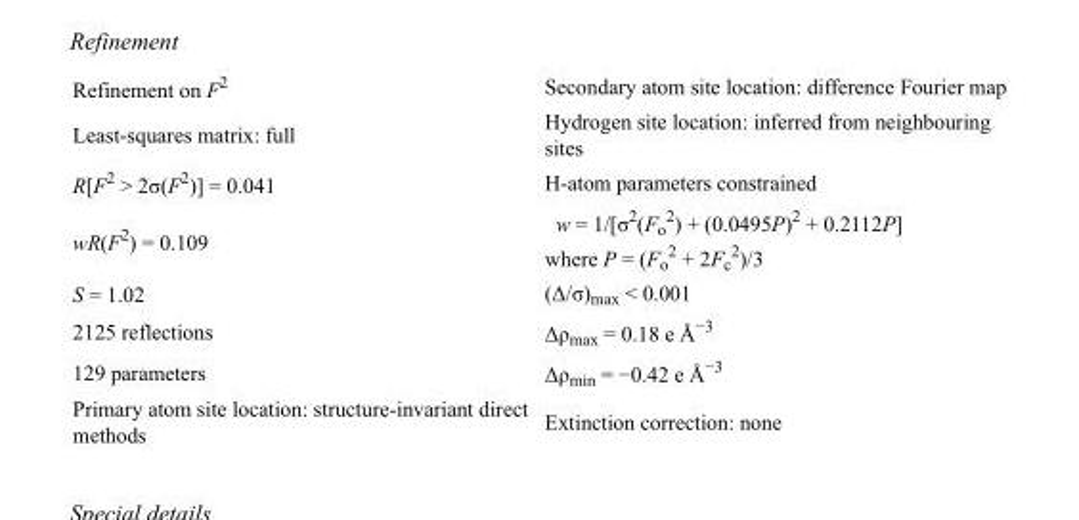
<table><tbody><tr><td>Refinement on F<sup>2</sup></td><td>Secondary atom site location: difference Fourier map</td></tr><tr><td>Least-squares matrix: full</td><td>Hydrogen site location: inferred from neighbouring sites</td></tr><tr><td>R[F<sup>2</sup> &gt; 2σ(F<sup>2</sup>)] = 0.041</td><td>H-atom parameters constrained</td></tr><tr><td>wR(F<sup>2</sup>) = 0.109</td><td>w = 1/[σ<sup>2</sup>(F<sub>o</sub> <sup>2</sup>) + (0.0495P)<sup>2</sup> + 0.2112P] where P = (F<sub>o</sub> <sup>2</sup> + 2F<sub>c</sub> <sup>2</sup>)/3</td></tr><tr><td>S = 1.02</td><td>(Δ/σ)<sub>max</sub> &lt; 0.001</td></tr><tr><td>2125 reflections</td><td>Δρ<sub>max</sub> = 0.18 e Å<sup>−3</sup></td></tr><tr><td>129 parameters</td><td>Δρ<sub>min</sub> = −0.42 e Å<sup>−3</sup></td></tr><tr><td>Primary atom site location: structure-invariant direct methods</td><td>Extinction correction: none</td></tr></tbody></table>